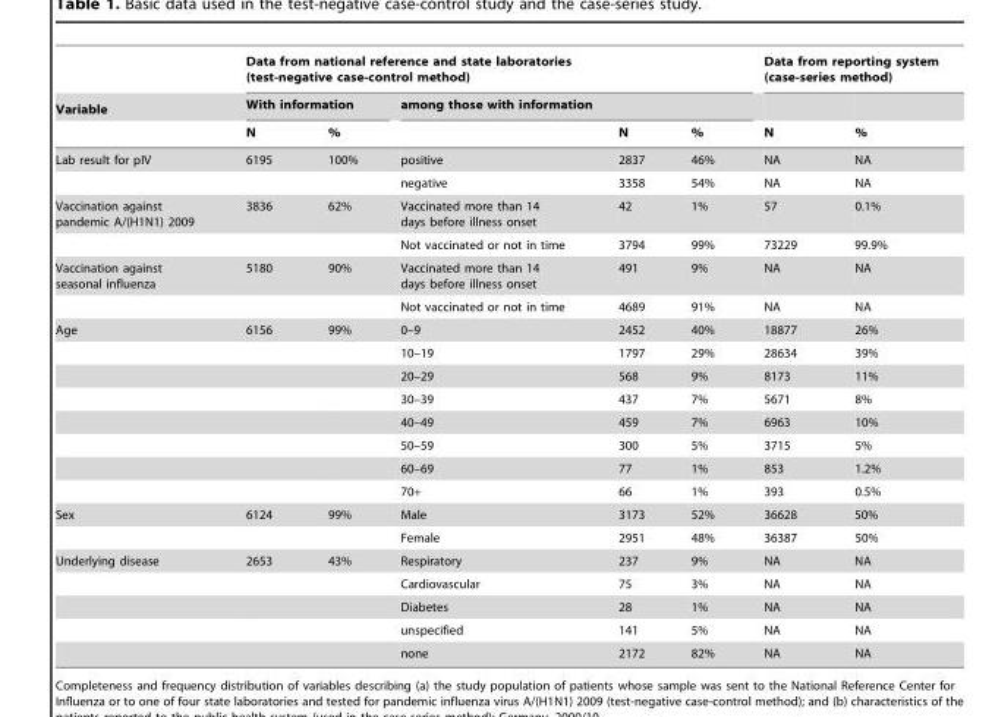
<table><thead><tr><td rowspan="3">Variable</td><td colspan="5">Data from national reference and state laboratories (test-negative case-control method)</td><td colspan="2">Data from reporting system (case-series method)</td></tr><tr><td colspan="2">With information</td><td colspan="3">among those with information</td><td rowspan="2">N</td><td rowspan="2">%</td></tr><tr><td>N</td><td>%</td><td></td><td>N</td><td>%</td></tr></thead><tbody><tr><td rowspan="2">Lab result for pIV</td><td>6195</td><td>100%</td><td>positive</td><td>2837</td><td>46%</td><td>NA</td><td>NA</td></tr><tr><td></td><td></td><td>negative</td><td>3358</td><td>54%</td><td>NA</td><td>NA</td></tr><tr><td rowspan="2">Vaccination against pandemic A/(H1N1) 2009</td><td>3836</td><td>62%</td><td>Vaccinated more than 14 days before illness onset</td><td>42</td><td>1%</td><td>57</td><td>0.1%</td></tr><tr><td></td><td></td><td>Not vaccinated or not in time</td><td>3794</td><td>99%</td><td>73229</td><td>99.9%</td></tr><tr><td rowspan="2">Vaccination against seasonal influenza</td><td>5180</td><td>90%</td><td>Vaccinated more than 14 days before illness onset</td><td>491</td><td>9%</td><td>NA</td><td>NA</td></tr><tr><td></td><td></td><td>Not vaccinated or not in time</td><td>4689</td><td>91%</td><td>NA</td><td>NA</td></tr><tr><td rowspan="8">Age</td><td>6156</td><td>99%</td><td>0–9</td><td>2452</td><td>40%</td><td>18877</td><td>26%</td></tr><tr><td></td><td></td><td>10–19</td><td>1797</td><td>29%</td><td>28634</td><td>39%</td></tr><tr><td></td><td></td><td>20–29</td><td>568</td><td>9%</td><td>8173</td><td>11%</td></tr><tr><td></td><td></td><td>30–39</td><td>437</td><td>7%</td><td>5671</td><td>8%</td></tr><tr><td></td><td></td><td>40–49</td><td>459</td><td>7%</td><td>6963</td><td>10%</td></tr><tr><td></td><td></td><td>50–59</td><td>300</td><td>5%</td><td>3715</td><td>5%</td></tr><tr><td></td><td></td><td>60–69</td><td>77</td><td>1%</td><td>853</td><td>1.2%</td></tr><tr><td></td><td></td><td>70+</td><td>66</td><td>1%</td><td>393</td><td>0.5%</td></tr><tr><td rowspan="2">Sex</td><td>6124</td><td>99%</td><td>Male</td><td>3173</td><td>52%</td><td>36628</td><td>50%</td></tr><tr><td></td><td></td><td>Female</td><td>2951</td><td>48%</td><td>36387</td><td>50%</td></tr><tr><td rowspan="5">Underlying disease</td><td>2653</td><td>43%</td><td>Respiratory</td><td>237</td><td>9%</td><td>NA</td><td>NA</td></tr><tr><td></td><td></td><td>Cardiovascular</td><td>75</td><td>3%</td><td>NA</td><td>NA</td></tr><tr><td></td><td></td><td>Diabetes</td><td>28</td><td>1%</td><td>NA</td><td>NA</td></tr><tr><td></td><td></td><td>unspecified</td><td>141</td><td>5%</td><td>NA</td><td>NA</td></tr><tr><td></td><td></td><td>none</td><td>2172</td><td>82%</td><td>NA</td><td>NA</td></tr></tbody></table>